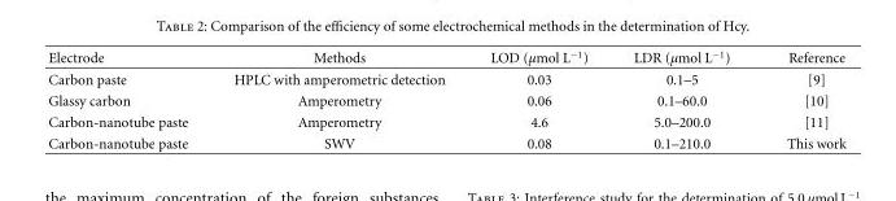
<table><thead><tr><td>Electrode</td><td>Methods</td><td>LOD (μmol L<sup>−1</sup>)</td><td>LDR (μmol L<sup>−1</sup>)</td><td>Reference</td></tr></thead><tbody><tr><td>Carbon paste</td><td>HPLC with amperometric detection</td><td>0.03</td><td>0.1–5</td><td>[9]</td></tr><tr><td>Glassy carbon</td><td>Amperometry</td><td>0.06</td><td>0.1–60.0</td><td>[10]</td></tr><tr><td>Carbon-nanotube paste</td><td>Amperometry</td><td>4.6</td><td>5.0–200.0</td><td>[11]</td></tr><tr><td>Carbon-nanotube paste</td><td>SWV</td><td>0.08</td><td>0.1–210.0</td><td>This work</td></tr></tbody></table>